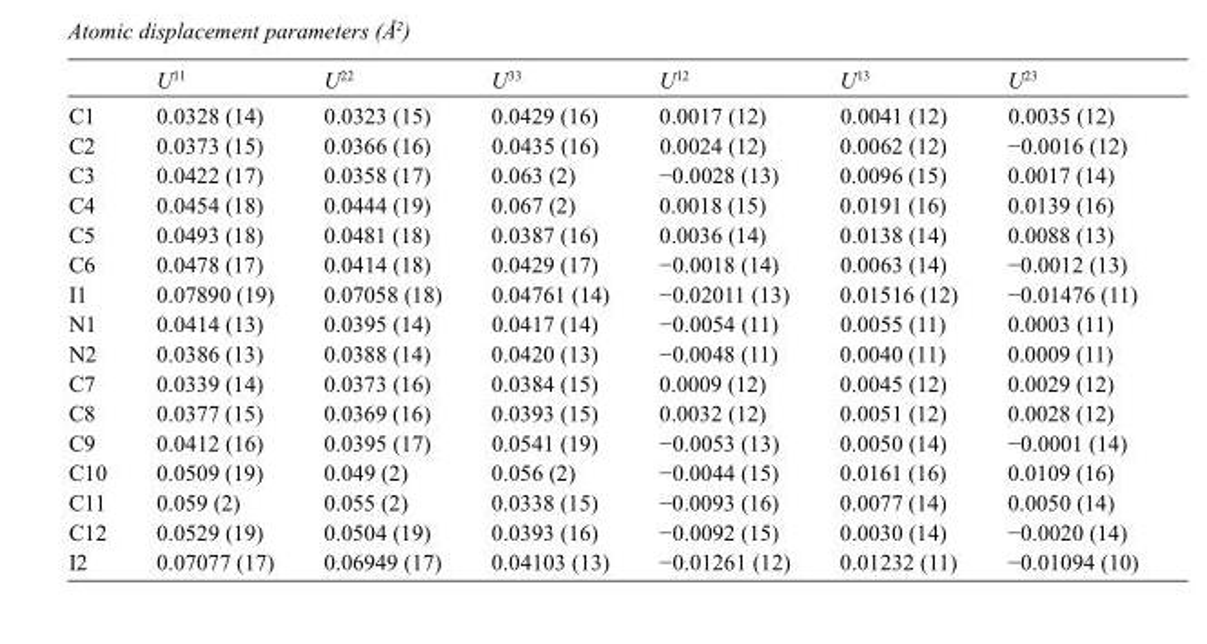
<table><thead><tr><td></td><td>U<sup>11</sup></td><td>U<sup>22</sup></td><td>U<sup>33</sup></td><td>U<sup>12</sup></td><td>U<sup>13</sup></td><td>U<sup>23</sup></td></tr></thead><tbody><tr><td>C1</td><td>0.0328 (14)</td><td>0.0323 (15)</td><td>0.0429 (16)</td><td>0.0017 (12)</td><td>0.0041 (12)</td><td>0.0035 (12)</td></tr><tr><td>C2</td><td>0.0373 (15)</td><td>0.0366 (16)</td><td>0.0435 (16)</td><td>0.0024 (12)</td><td>0.0062 (12)</td><td>−0.0016 (12)</td></tr><tr><td>C3</td><td>0.0422 (17)</td><td>0.0358 (17)</td><td>0.063 (2)</td><td>−0.0028 (13)</td><td>0.0096 (15)</td><td>0.0017 (14)</td></tr><tr><td>C4</td><td>0.0454 (18)</td><td>0.0444 (19)</td><td>0.067 (2)</td><td>0.0018 (15)</td><td>0.0191 (16)</td><td>0.0139 (16)</td></tr><tr><td>C5</td><td>0.0493 (18)</td><td>0.0481 (18)</td><td>0.0387 (16)</td><td>0.0036 (14)</td><td>0.0138 (14)</td><td>0.0088 (13)</td></tr><tr><td>C6</td><td>0.0478 (17)</td><td>0.0414 (18)</td><td>0.0429 (17)</td><td>−0.0018 (14)</td><td>0.0063 (14)</td><td>−0.0012 (13)</td></tr><tr><td>I1</td><td>0.07890 (19)</td><td>0.07058 (18)</td><td>0.04761 (14)</td><td>−0.02011 (13)</td><td>0.01516 (12)</td><td>−0.01476 (11)</td></tr><tr><td>N1</td><td>0.0414 (13)</td><td>0.0395 (14)</td><td>0.0417 (14)</td><td>−0.0054 (11)</td><td>0.0055 (11)</td><td>0.0003 (11)</td></tr><tr><td>N2</td><td>0.0386 (13)</td><td>0.0388 (14)</td><td>0.0420 (13)</td><td>−0.0048 (11)</td><td>0.0040 (11)</td><td>0.0009 (11)</td></tr><tr><td>C7</td><td>0.0339 (14)</td><td>0.0373 (16)</td><td>0.0384 (15)</td><td>0.0009 (12)</td><td>0.0045 (12)</td><td>0.0029 (12)</td></tr><tr><td>C8</td><td>0.0377 (15)</td><td>0.0369 (16)</td><td>0.0393 (15)</td><td>0.0032 (12)</td><td>0.0051 (12)</td><td>0.0028 (12)</td></tr><tr><td>C9</td><td>0.0412 (16)</td><td>0.0395 (17)</td><td>0.0541 (19)</td><td>−0.0053 (13)</td><td>0.0050 (14)</td><td>−0.0001 (14)</td></tr><tr><td>C10</td><td>0.0509 (19)</td><td>0.049 (2)</td><td>0.056 (2)</td><td>−0.0044 (15)</td><td>0.0161 (16)</td><td>0.0109 (16)</td></tr><tr><td>C11</td><td>0.059 (2)</td><td>0.055 (2)</td><td>0.0338 (15)</td><td>−0.0093 (16)</td><td>0.0077 (14)</td><td>0.0050 (14)</td></tr><tr><td>C12</td><td>0.0529 (19)</td><td>0.0504 (19)</td><td>0.0393 (16)</td><td>−0.0092 (15)</td><td>0.0030 (14)</td><td>−0.0020 (14)</td></tr><tr><td>I2</td><td>0.07077 (17)</td><td>0.06949 (17)</td><td>0.04103 (13)</td><td>−0.01261 (12)</td><td>0.01232 (11)</td><td>−0.01094 (10)</td></tr></tbody></table>